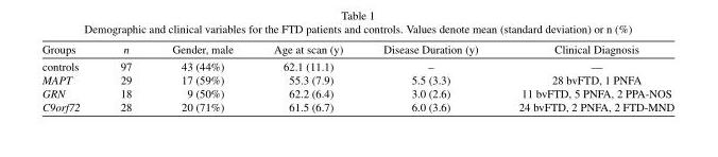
<table><thead><tr><td>Groups</td><td>n</td><td>Gender, male</td><td>Age at scan (y)</td><td>Disease Duration (y)</td><td>Clinical Diagnosis</td></tr></thead><tbody><tr><td>controls</td><td>97</td><td>43 (44%)</td><td>62.1 (11.1)</td><td>–</td><td>—</td></tr><tr><td>MAPT</td><td>29</td><td>17 (59%)</td><td>55.3 (7.9)</td><td>5.5 (3.3)</td><td>28 bvFTD, 1 PNFA</td></tr><tr><td>GRN</td><td>18</td><td>9 (50%)</td><td>62.2 (6.4)</td><td>3.0 (2.6)</td><td>11 bvFTD, 5 PNFA, 2 PPA-NOS</td></tr><tr><td>C9orf72</td><td>28</td><td>20 (71%)</td><td>61.5 (6.7)</td><td>6.0 (3.6)</td><td>24 bvFTD, 2 PNFA, 2 FTD-MND</td></tr></tbody></table>